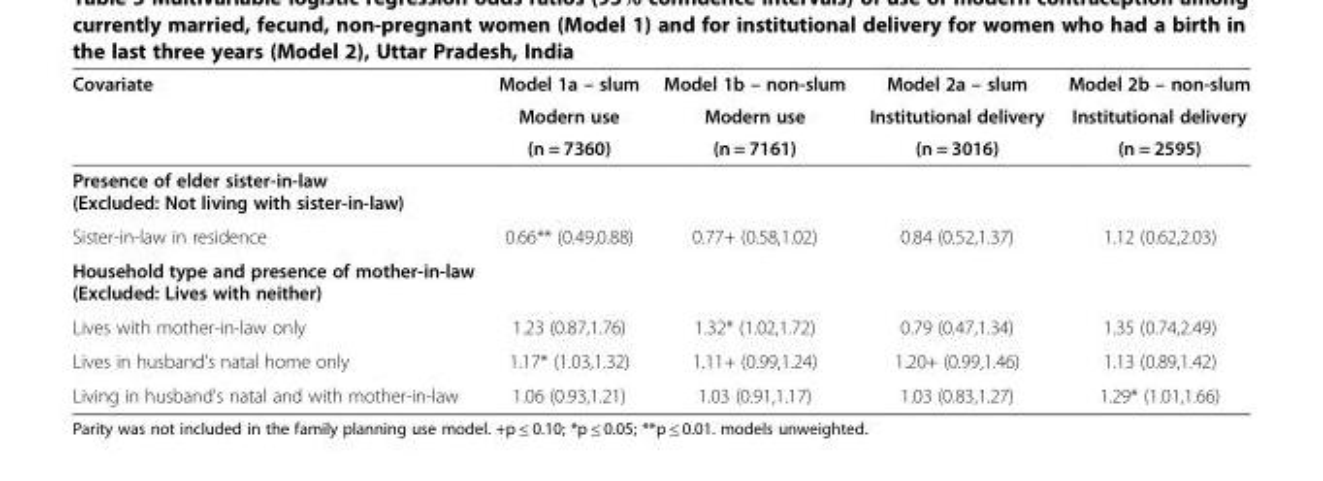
<table><thead><tr><td rowspan="3">Covariate</td><td rowspan="3">Model 1a – slum Modern use (n = 7360)</td><td rowspan="3">Model 1b – non-slum Modern use (n = 7161)</td><td rowspan="3">Model 2a – slum Institutional delivery (n = 3016)</td><td rowspan="3">Model 2b – non-slum Institutional delivery (n = 2595)</td></tr><tr></tr><tr></tr></thead><tbody><tr><td colspan="5">Presence of elder sister-in-law (Excluded: Not living with sister-in-law)</td></tr><tr><td>Sister-in-law in residence</td><td>0.66** (0.49,0.88)</td><td>0.77+ (0.58,1.02)</td><td>0.84 (0.52,1.37)</td><td>1.12 (0.62,2.03)</td></tr><tr><td colspan="5">Household type and presence of mother-in-law (Excluded: Lives with neither)</td></tr><tr><td>Lives with mother-in-law only</td><td>1.23 (0.87,1.76)</td><td>1.32* (1.02,1.72)</td><td>0.79 (0.47,1.34)</td><td>1.35 (0.74,2.49)</td></tr><tr><td>Lives in husband’s natal home only</td><td>1.17* (1.03,1.32)</td><td>1.11+ (0.99,1.24)</td><td>1.20+ (0.99,1.46)</td><td>1.13 (0.89,1.42)</td></tr><tr><td>Living in husband’s natal and with mother-in-law</td><td>1.06 (0.93,1.21)</td><td>1.03 (0.91,1.17)</td><td>1.03 (0.83,1.27)</td><td>1.29* (1.01,1.66)</td></tr></tbody></table>